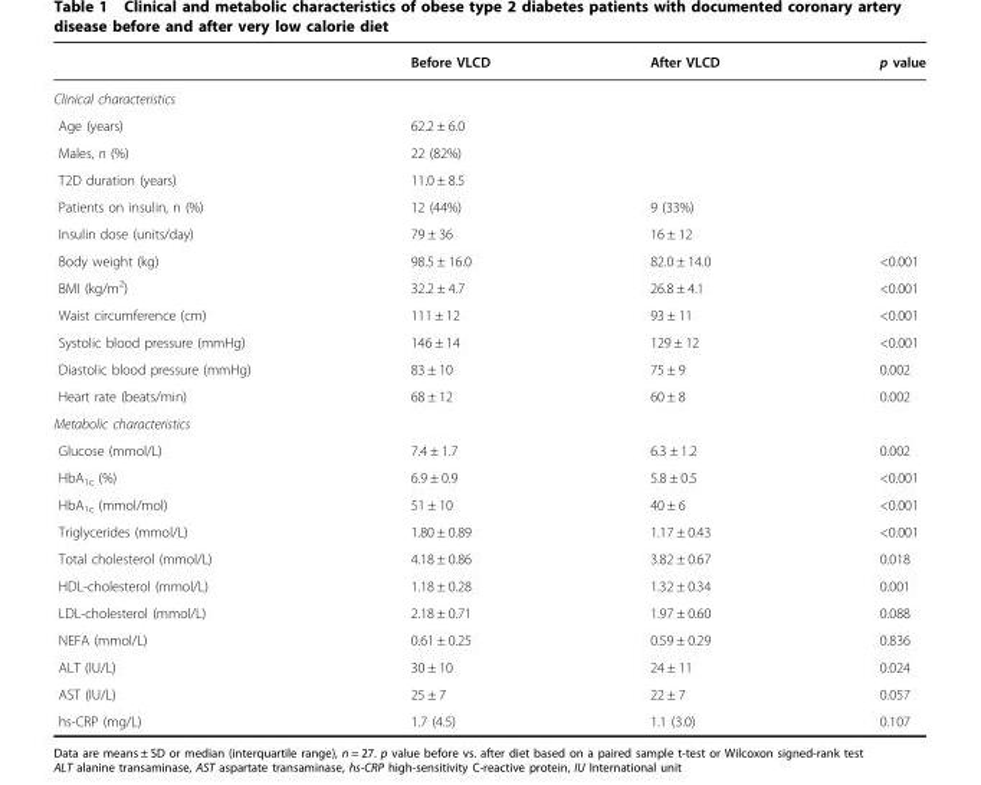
<table><thead><tr><td></td><td>Before VLCD</td><td>After VLCD</td><td>p value</td></tr></thead><tbody><tr><td colspan="4">Clinical characteristics</td></tr><tr><td>Age (years)</td><td>62.2 ± 6.0</td><td></td><td></td></tr><tr><td>Males, n (%)</td><td>22 (82%)</td><td></td><td></td></tr><tr><td>T2D duration (years)</td><td>11.0 ± 8.5</td><td></td><td></td></tr><tr><td>Patients on insulin, n (%)</td><td>12 (44%)</td><td>9 (33%)</td><td></td></tr><tr><td>Insulin dose (units/day)</td><td>79 ± 36</td><td>16 ± 12</td><td></td></tr><tr><td>Body weight (kg)</td><td>98.5 ± 16.0</td><td>82.0 ± 14.0</td><td>&lt;0.001</td></tr><tr><td>BMI (kg/m<sup>2</sup>)</td><td>32.2 ± 4.7</td><td>26.8 ± 4.1</td><td>&lt;0.001</td></tr><tr><td>Waist circumference (cm)</td><td>111 ± 12</td><td>93 ± 11</td><td>&lt;0.001</td></tr><tr><td>Systolic blood pressure (mmHg)</td><td>146 ± 14</td><td>129 ± 12</td><td>&lt;0.001</td></tr><tr><td>Diastolic blood pressure (mmHg)</td><td>83 ± 10</td><td>75 ± 9</td><td>0.002</td></tr><tr><td>Heart rate (beats/min)</td><td>68 ± 12</td><td>60 ± 8</td><td>0.002</td></tr><tr><td colspan="4">Metabolic characteristics</td></tr><tr><td>Glucose (mmol/L)</td><td>7.4 ± 1.7</td><td>6.3 ± 1.2</td><td>0.002</td></tr><tr><td>HbA<sub>1c</sub> (%)</td><td>6.9 ± 0.9</td><td>5.8 ± 0.5</td><td>&lt;0.001</td></tr><tr><td>HbA<sub>1c</sub> (mmol/mol)</td><td>51 ± 10</td><td>40 ± 6</td><td>&lt;0.001</td></tr><tr><td>Triglycerides (mmol/L)</td><td>1.80 ± 0.89</td><td>1.17 ± 0.43</td><td>&lt;0.001</td></tr><tr><td>Total cholesterol (mmol/L)</td><td>4.18 ± 0.86</td><td>3.82 ± 0.67</td><td>0.018</td></tr><tr><td>HDL-cholesterol (mmol/L)</td><td>1.18 ± 0.28</td><td>1.32 ± 0.34</td><td>0.001</td></tr><tr><td>LDL-cholesterol (mmol/L)</td><td>2.18 ± 0.71</td><td>1.97 ± 0.60</td><td>0.088</td></tr><tr><td>NEFA (mmol/L)</td><td>0.61 ± 0.25</td><td>0.59 ± 0.29</td><td>0.836</td></tr><tr><td>ALT (IU/L)</td><td>30 ± 10</td><td>24 ± 11</td><td>0.024</td></tr><tr><td>AST (IU/L)</td><td>25 ± 7</td><td>22 ± 7</td><td>0.057</td></tr><tr><td>hs-CRP (mg/L)</td><td>1.7 (4.5)</td><td>1.1 (3.0)</td><td>0.107</td></tr></tbody></table>